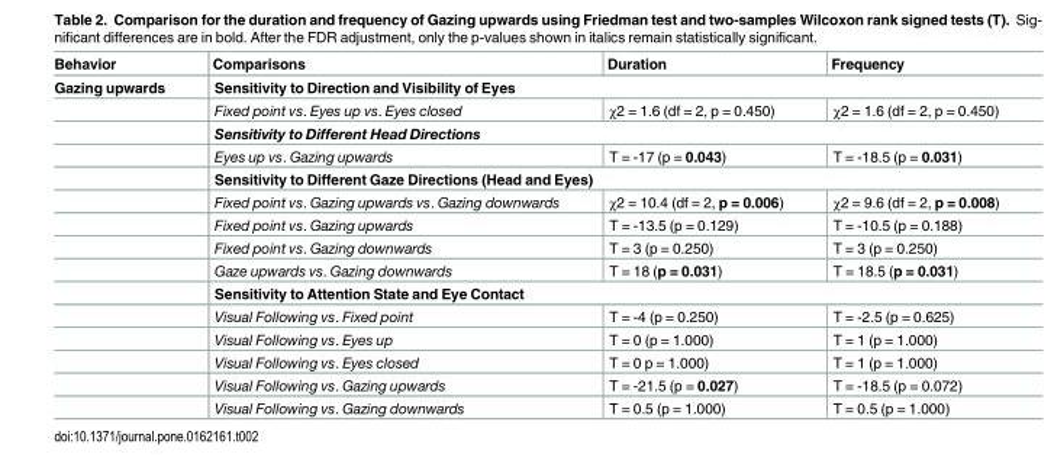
<table><thead><tr><td>Behavior</td><td>Comparisons</td><td>Duration</td><td>Frequency</td></tr></thead><tbody><tr><td rowspan="15">Gazing upwards</td><td colspan="3">Sensitivity to Direction and Visibility of Eyes</td></tr><tr><td>Fixed point vs. Eyes up vs. Eyes closed</td><td>χ2 = 1.6 (df = 2, p = 0.450)</td><td>χ2 = 1.6 (df = 2, p = 0.450)</td></tr><tr><td colspan="3">Sensitivity to Different Head Directions</td></tr><tr><td>Eyes up vs. Gazing upwards</td><td>T = -17 (p = 0.043)</td><td>T = -18.5 (p = 0.031)</td></tr><tr><td colspan="3">Sensitivity to Different Gaze Directions (Head and Eyes)</td></tr><tr><td>Fixed point vs. Gazing upwards vs. Gazing downwards</td><td>χ2 = 10.4 (df = 2, p = 0.006)</td><td>χ2 = 9.6 (df = 2, p = 0.008)</td></tr><tr><td>Fixed point vs. Gazing upwards</td><td>T = -13.5 (p = 0.129)</td><td>T = -10.5 (p = 0.188)</td></tr><tr><td>Fixed point vs. Gazing downwards</td><td>T = 3 (p = 0.250)</td><td>T = 3 (p = 0.250)</td></tr><tr><td>Gaze upwards vs. Gazing downwards</td><td>T = 18 (p = 0.031)</td><td>T = 18.5 (p = 0.031)</td></tr><tr><td colspan="3">Sensitivity to Attention State and Eye Contact</td></tr><tr><td>Visual Following vs. Fixed point</td><td>T = -4 (p = 0.250)</td><td>T = -2.5 (p = 0.625)</td></tr><tr><td>Visual Following vs. Eyes up</td><td>T = 0 (p = 1.000)</td><td>T = 1 (p = 1.000)</td></tr><tr><td>Visual Following vs. Eyes closed</td><td>T = 0 p = 1.000)</td><td>T = 1 (p = 1.000)</td></tr><tr><td>Visual Following vs. Gazing upwards</td><td>T = -21.5 (p = 0.027)</td><td>T = -18.5 (p = 0.072)</td></tr><tr><td>Visual Following vs. Gazing downwards</td><td>T = 0.5 (p = 1.000)</td><td>T = 0.5 (p = 1.000)</td></tr></tbody></table>